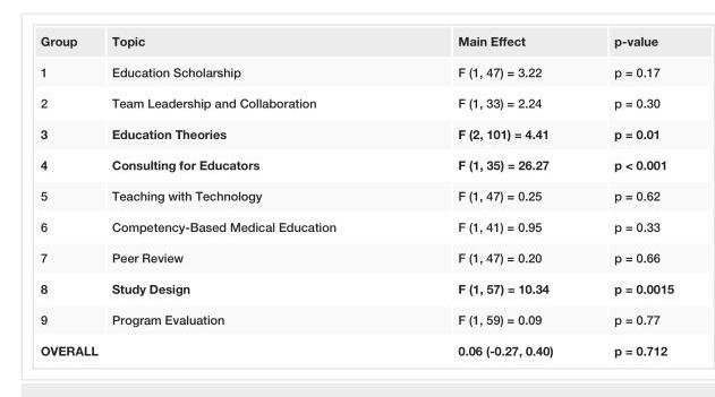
<table><tbody><tr><td>Group</td><td>Topic</td><td>Main Effect</td><td>p-value</td></tr><tr><td>1</td><td>Education Scholarship</td><td>F (1, 47) = 3.22</td><td>p = 0.17</td></tr><tr><td>2</td><td>Team Leadership and Collaboration</td><td>F (1, 33) = 2.24</td><td>p = 0.30</td></tr><tr><td>3</td><td>Education Theories</td><td>F (2, 101) = 4.41</td><td>p = 0.01</td></tr><tr><td>4</td><td>Consulting for Educators</td><td>F (1, 35) = 26.27</td><td>p &lt; 0.001</td></tr><tr><td>5</td><td>Teaching with Technology</td><td>F (1, 47) = 0.25</td><td>p = 0.62</td></tr><tr><td>6</td><td>Competency-Based Medical Education</td><td>F (1, 41) = 0.95</td><td>p = 0.33</td></tr><tr><td>7</td><td>Peer Review</td><td>F (1, 47) = 0.20</td><td>p = 0.66</td></tr><tr><td>8</td><td>Study Design</td><td>F (1, 57) = 10.34</td><td>p = 0.0015</td></tr><tr><td>9</td><td>Program Evaluation</td><td>F (1, 59) = 0.09</td><td>p = 0.77</td></tr><tr><td colspan="2">OVERALL</td><td>0.06 (-0.27, 0.40)</td><td>p = 0.712</td></tr></tbody></table>